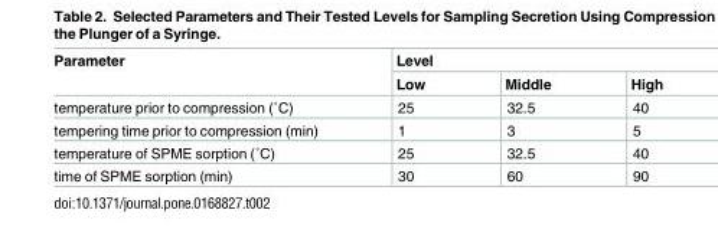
<table><thead><tr><td rowspan="2">Parameter</td><td colspan="3">Level</td></tr><tr><td>Low</td><td>Middle</td><td>High</td></tr></thead><tbody><tr><td>temperature prior to compression (˚C)</td><td>25</td><td>32.5</td><td>40</td></tr><tr><td>tempering time prior to compression (min)</td><td>1</td><td>3</td><td>5</td></tr><tr><td>temperature of SPME sorption (˚C)</td><td>25</td><td>32.5</td><td>40</td></tr><tr><td>time of SPME sorption (min)</td><td>30</td><td>60</td><td>90</td></tr></tbody></table>